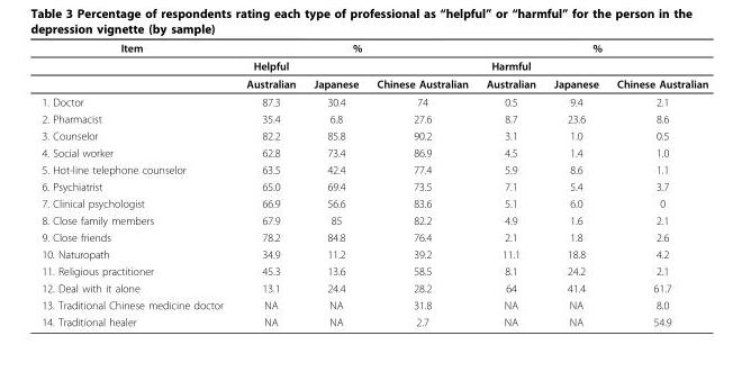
<table><thead><tr><td rowspan="2">Item</td><td colspan="3">%</td><td colspan="3">%</td></tr><tr><td>Helpful</td><td></td><td></td><td>Harmful</td><td></td><td></td></tr></thead><tbody><tr><td></td><td>Australian</td><td>Japanese</td><td>Chinese Australian</td><td>Australian</td><td>Japanese</td><td>Chinese Australian</td></tr><tr><td>1. Doctor</td><td>87.3</td><td>30.4</td><td>74</td><td>0.5</td><td>9.4</td><td>2.1</td></tr><tr><td>2. Pharmacist</td><td>35.4</td><td>6.8</td><td>27.6</td><td>8.7</td><td>23.6</td><td>8.6</td></tr><tr><td>3. Counselor</td><td>82.2</td><td>85.8</td><td>90.2</td><td>3.1</td><td>1.0</td><td>0.5</td></tr><tr><td>4. Social worker</td><td>62.8</td><td>73.4</td><td>86.9</td><td>4.5</td><td>1.4</td><td>1.0</td></tr><tr><td>5. Hot-line telephone counselor</td><td>63.5</td><td>42.4</td><td>77.4</td><td>5.9</td><td>8.6</td><td>1.1</td></tr><tr><td>6. Psychiatrist</td><td>65.0</td><td>69.4</td><td>73.5</td><td>7.1</td><td>5.4</td><td>3.7</td></tr><tr><td>7. Clinical psychologist</td><td>66.9</td><td>56.6</td><td>83.6</td><td>5.1</td><td>6.0</td><td>0</td></tr><tr><td>8. Close family members</td><td>67.9</td><td>85</td><td>82.2</td><td>4.9</td><td>1.6</td><td>2.1</td></tr><tr><td>9. Close friends</td><td>78.2</td><td>84.8</td><td>76.4</td><td>2.1</td><td>1.8</td><td>2.6</td></tr><tr><td>10. Naturopath</td><td>34.9</td><td>11.2</td><td>39.2</td><td>11.1</td><td>18.8</td><td>4.2</td></tr><tr><td>11. Religious practitioner</td><td>45.3</td><td>13.6</td><td>58.5</td><td>8.1</td><td>24.2</td><td>2.1</td></tr><tr><td>12. Deal with it alone</td><td>13.1</td><td>24.4</td><td>28.2</td><td>64</td><td>41.4</td><td>61.7</td></tr><tr><td>13. Traditional Chinese medicine doctor</td><td>NA</td><td>NA</td><td>31.8</td><td>NA</td><td>NA</td><td>8.0</td></tr><tr><td>14. Traditional healer</td><td>NA</td><td>NA</td><td>2.7</td><td>NA</td><td>NA</td><td>54.9</td></tr></tbody></table>